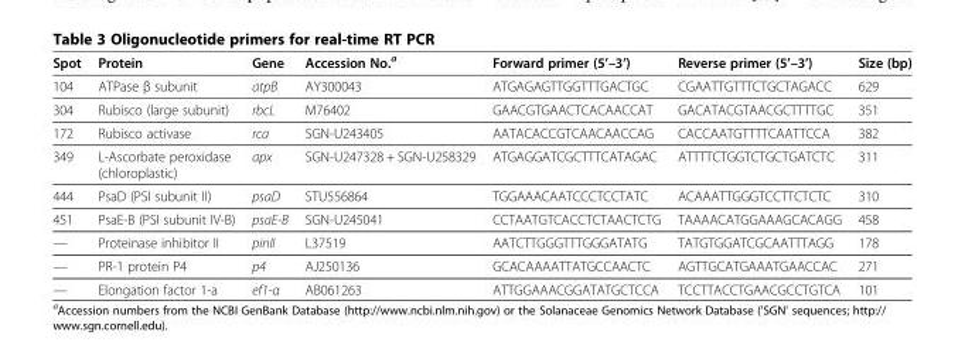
<table><thead><tr><td>Spot</td><td>Protein</td><td>Gene</td><td>Accession No.<sup>a</sup></td><td>Forward primer (5’–3’)</td><td>Reverse primer (5’–3’)</td><td>Size (bp)</td></tr></thead><tbody><tr><td>104</td><td>ATPase β subunit</td><td>atpB</td><td>AY300043</td><td>ATGAGAGTTGGTTTGACTGC</td><td>CGAATTGTTTCTGCTAGACC</td><td>629</td></tr><tr><td>304</td><td>Rubisco (large subunit)</td><td>rbcL</td><td>M76402</td><td>GAACGTGAACTCACAACCAT</td><td>GACATACGTAACGCTTTTGC</td><td>351</td></tr><tr><td>172</td><td>Rubisco activase</td><td>rca</td><td>SGN-U243405</td><td>AATACACCGTCAACAACCAG</td><td>CACCAATGTTTTCAATTCCA</td><td>382</td></tr><tr><td>349</td><td>L-Ascorbate peroxidase (chloroplastic)</td><td>apx</td><td>SGN-U247328 + SGN-U258329</td><td>ATGAGGATCGCTTTCATAGAC</td><td>ATTTTCTGGTCTGCTGATCTC</td><td>311</td></tr><tr><td>444</td><td>PsaD (PSI subunit II)</td><td>psaD</td><td>STU556864</td><td>TGGAAACAATCCCTCCTATC</td><td>ACAAATTGGGTCCTTCTCTC</td><td>310</td></tr><tr><td>451</td><td>PsaE-B (PSI subunit IV-B)</td><td>psaE-B</td><td>SGN-U245041</td><td>CCTAATGTCACCTCTAACTCTG</td><td>TAAAACATGGAAAGCACAGG</td><td>458</td></tr><tr><td>—</td><td>Proteinase inhibitor II</td><td>pinII</td><td>L37519</td><td>AATCTTGGGTTTGGGATATG</td><td>TATGTGGATCGCAATTTAGG</td><td>178</td></tr><tr><td>—</td><td>PR-1 protein P4</td><td>p4</td><td>AJ250136</td><td>GCACAAAATTATGCCAACTC</td><td>AGTTGCATGAAATGAACCAC</td><td>271</td></tr><tr><td>—</td><td>Elongation factor 1-a</td><td>ef1-α</td><td>AB061263</td><td>ATTGGAAACGGATATGCTCCA</td><td>TCCTTACCTGAACGCCTGTCA</td><td>101</td></tr></tbody></table>